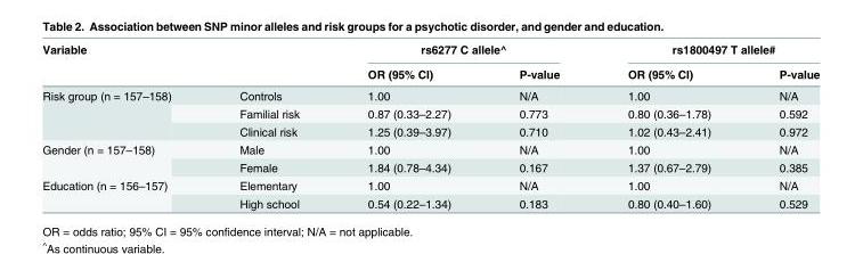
<table><thead><tr><td rowspan="2">Variable</td><td rowspan="2"></td><td colspan="2">rs6277 C allele^</td><td colspan="2">rs1800497 T allele#</td></tr><tr><td>OR (95% CI)</td><td>P-value</td><td>OR (95% CI)</td><td>P-value</td></tr></thead><tbody><tr><td rowspan="3">Risk group (n = 157–158)</td><td>Controls</td><td>1.00</td><td>N/A</td><td>1.00</td><td>N/A</td></tr><tr><td>Familial risk</td><td>0.87 (0.33–2.27)</td><td>0.773</td><td>0.80 (0.36–1.78)</td><td>0.592</td></tr><tr><td>Clinical risk</td><td>1.25 (0.39–3.97)</td><td>0.710</td><td>1.02 (0.43–2.41)</td><td>0.972</td></tr><tr><td rowspan="2">Gender (n = 157–158)</td><td>Male</td><td>1.00</td><td>N/A</td><td>1.00</td><td>N/A</td></tr><tr><td>Female</td><td>1.84 (0.78–4.34)</td><td>0.167</td><td>1.37 (0.67–2.79)</td><td>0.385</td></tr><tr><td rowspan="2">Education (n = 156–157)</td><td>Elementary</td><td>1.00</td><td>N/A</td><td>1.00</td><td>N/A</td></tr><tr><td>High school</td><td>0.54 (0.22–1.34)</td><td>0.183</td><td>0.80 (0.40–1.60)</td><td>0.529</td></tr></tbody></table>